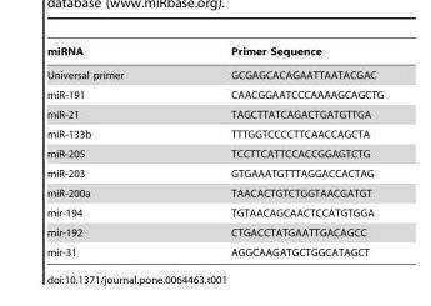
<table><thead><tr><td>miRNA</td><td>Primer Sequence</td></tr></thead><tbody><tr><td>Universal primer</td><td>GCGAGCACAGAATTAATACGAC</td></tr><tr><td>miR-191</td><td>CAACGGAATCCCAAAAGCAGCTG</td></tr><tr><td>miR-21</td><td>TAGCTTATCAGACTGATGTTGA</td></tr><tr><td>miR-133b</td><td>TTTGGTCCCCTTCAACCAGCTA</td></tr><tr><td>miR-205</td><td>TCCTTCATTCCACCGGAGTCTG</td></tr><tr><td>miR-203</td><td>GTGAAATGTTTAGGACCACTAG</td></tr><tr><td>miR-200a</td><td>TAACACTGTCTGGTAACGATGT</td></tr><tr><td>mir-194</td><td>TGTAACAGCAACTCCATGTGGA</td></tr><tr><td>mir-192</td><td>CTGACCTATGAATTGACAGCC</td></tr><tr><td>mir-31</td><td>AGGCAAGATGCTGGCATAGCT</td></tr></tbody></table>